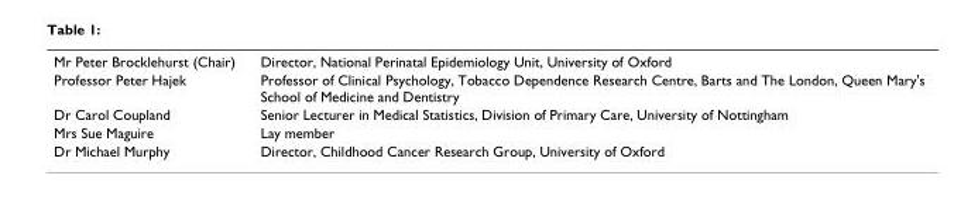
<table><tbody><tr><td>Mr Peter Brocklehurst (Chair)</td><td>Director, National Perinatal Epidemiology Unit, University of Oxford</td></tr><tr><td>Professor Peter Hajek</td><td>Professor of Clinical Psychology, Tobacco Dependence Research Centre, Barts and The London, Queen Mary&#x27;s School of Medicine and Dentistry</td></tr><tr><td>Dr Carol Coupland</td><td>Senior Lecturer in Medical Statistics, Division of Primary Care, University of Nottingham</td></tr><tr><td>Mrs Sue Maguire</td><td>Lay member</td></tr><tr><td>Dr Michael Murphy</td><td>Director, Childhood Cancer Research Group, University of Oxford</td></tr></tbody></table>